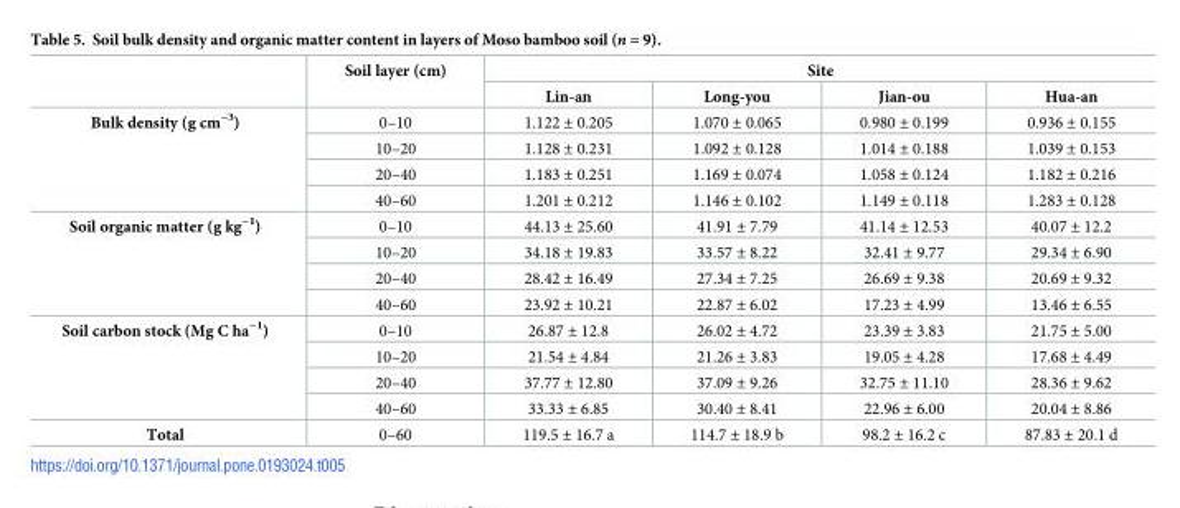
<table><thead><tr><td rowspan="2"></td><td rowspan="2">Soil layer (cm)</td><td colspan="4">Site</td></tr><tr><td>Lin-an</td><td>Long-you</td><td>Jian-ou</td><td>Hua-an</td></tr></thead><tbody><tr><td rowspan="4">Bulk density (g cm<sup>−3</sup>)</td><td>0–10</td><td>1.122 ± 0.205</td><td>1.070 ± 0.065</td><td>0.980 ± 0.199</td><td>0.936 ± 0.155</td></tr><tr><td>10–20</td><td>1.128 ± 0.231</td><td>1.092 ± 0.128</td><td>1.014 ± 0.188</td><td>1.039 ± 0.153</td></tr><tr><td>20–40</td><td>1.183 ± 0.251</td><td>1.169 ± 0.074</td><td>1.058 ± 0.124</td><td>1.182 ± 0.216</td></tr><tr><td>40–60</td><td>1.201 ± 0.212</td><td>1.146 ± 0.102</td><td>1.149 ± 0.118</td><td>1.283 ± 0.128</td></tr><tr><td rowspan="4">Soil organic matter (g kg<sup>−1</sup>)</td><td>0–10</td><td>44.13 ± 25.60</td><td>41.91 ± 7.79</td><td>41.14 ± 12.53</td><td>40.07 ± 12.2</td></tr><tr><td>10–20</td><td>34.18 ± 19.83</td><td>33.57 ± 8.22</td><td>32.41 ± 9.77</td><td>29.34 ± 6.90</td></tr><tr><td>20–40</td><td>28.42 ± 16.49</td><td>27.34 ± 7.25</td><td>26.69 ± 9.38</td><td>20.69 ± 9.32</td></tr><tr><td>40–60</td><td>23.92 ± 10.21</td><td>22.87 ± 6.02</td><td>17.23 ± 4.99</td><td>13.46 ± 6.55</td></tr><tr><td rowspan="4">Soil carbon stock (Mg C ha<sup>−1</sup>)</td><td>0–10</td><td>26.87 ± 12.8</td><td>26.02 ± 4.72</td><td>23.39 ± 3.83</td><td>21.75 ± 5.00</td></tr><tr><td>10–20</td><td>21.54 ± 4.84</td><td>21.26 ± 3.83</td><td>19.05 ± 4.28</td><td>17.68 ± 4.49</td></tr><tr><td>20–40</td><td>37.77 ± 12.80</td><td>37.09 ± 9.26</td><td>32.75 ± 11.10</td><td>28.36 ± 9.62</td></tr><tr><td>40–60</td><td>33.33 ± 6.85</td><td>30.40 ± 8.41</td><td>22.96 ± 6.00</td><td>20.04 ± 8.86</td></tr><tr><td>Total</td><td>0–60</td><td>119.5 ± 16.7 a</td><td>114.7 ± 18.9 b</td><td>98.2 ± 16.2 c</td><td>87.83 ± 20.1 d</td></tr></tbody></table>